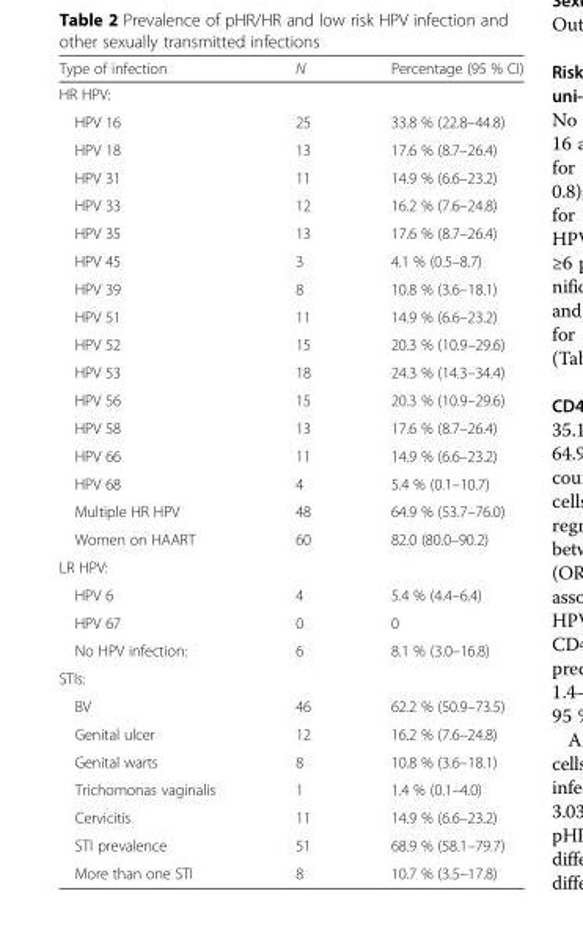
<table><thead><tr><td>Type of infection</td><td>N</td><td>Percentage (95 % CI)</td></tr></thead><tbody><tr><td colspan="3">HR HPV:</td></tr><tr><td>HPV 16</td><td>25</td><td>33.8 % (22.8–44.8)</td></tr><tr><td>HPV 18</td><td>13</td><td>17.6 % (8.7–26.4)</td></tr><tr><td>HPV 31</td><td>11</td><td>14.9 % (6.6–23.2)</td></tr><tr><td>HPV 33</td><td>12</td><td>16.2 % (7.6–24.8)</td></tr><tr><td>HPV 35</td><td>13</td><td>17.6 % (8.7–26.4)</td></tr><tr><td>HPV 45</td><td>3</td><td>4.1 % (0.5–8.7)</td></tr><tr><td>HPV 39</td><td>8</td><td>10.8 % (3.6–18.1)</td></tr><tr><td>HPV 51</td><td>11</td><td>14.9 % (6.6–23.2)</td></tr><tr><td>HPV 52</td><td>15</td><td>20.3 % (10.9–29.6)</td></tr><tr><td>HPV 53</td><td>18</td><td>24.3 % (14.3–34.4)</td></tr><tr><td>HPV 56</td><td>15</td><td>20.3 % (10.9–29.6)</td></tr><tr><td>HPV 58</td><td>13</td><td>17.6 % (8.7–26.4)</td></tr><tr><td>HPV 66</td><td>11</td><td>14.9 % (6.6–23.2)</td></tr><tr><td>HPV 68</td><td>4</td><td>5.4 % (0.1–10.7)</td></tr><tr><td>Multiple HR HPV</td><td>48</td><td>64.9 % (53.7–76.0)</td></tr><tr><td>Women on HAART</td><td>60</td><td>82.0 (80.0–90.2)</td></tr><tr><td colspan="3">LR HPV:</td></tr><tr><td>HPV 6</td><td>4</td><td>5.4 % (4.4–6.4)</td></tr><tr><td>HPV 67</td><td>0</td><td>0</td></tr><tr><td>No HPV infection:</td><td>6</td><td>8.1 % (3.0–16.8)</td></tr><tr><td colspan="3">STIs:</td></tr><tr><td>BV</td><td>46</td><td>62.2 % (50.9–73.5)</td></tr><tr><td>Genital ulcer</td><td>12</td><td>16.2 % (7.6–24.8)</td></tr><tr><td>Genital warts</td><td>8</td><td>10.8 % (3.6–18.1)</td></tr><tr><td>Trichomonas vaginalis</td><td>1</td><td>1.4 % (0.1–4.0)</td></tr><tr><td>Cervicitis</td><td>11</td><td>14.9 % (6.6–23.2)</td></tr><tr><td>STI prevalence</td><td>51</td><td>68.9 % (58.1–79.7)</td></tr><tr><td>More than one STI</td><td>8</td><td>10.7 % (3.5–17.8)</td></tr></tbody></table>